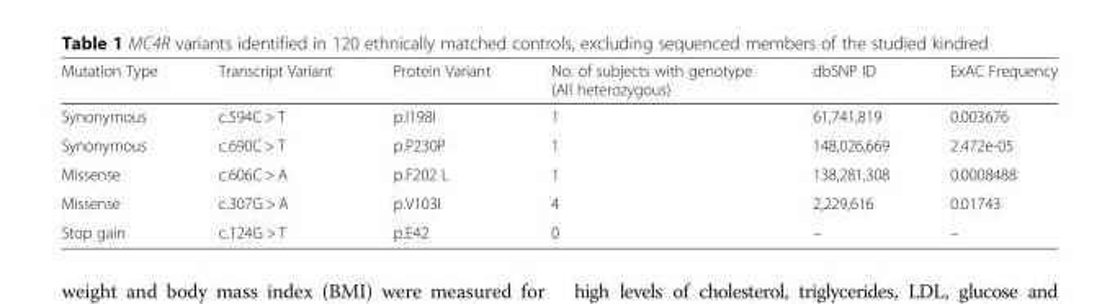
<table><thead><tr><td>Mutation Type</td><td>Transcript Variant</td><td>Protein Variant</td><td>No. of subjects with genotype (All heterozygous)</td><td>dbSNP ID</td><td>ExAC Frequency</td></tr></thead><tbody><tr><td>Synonymous</td><td>c.594C &gt; T</td><td>p.I198I</td><td>1</td><td>61,741,819</td><td>0.003676</td></tr><tr><td>Synonymous</td><td>c.690C &gt; T</td><td>p.P230P</td><td>1</td><td>148,026,669</td><td>2.472e-05</td></tr><tr><td>Missense</td><td>c.606C &gt; A</td><td>p.F202 L</td><td>1</td><td>138,281,308</td><td>0.0008488</td></tr><tr><td>Missense</td><td>c.307G &gt; A</td><td>p.V103I</td><td>4</td><td>2,229,616</td><td>0.01743</td></tr><tr><td>Stop gain</td><td>c.124G &gt; T</td><td>p.E42</td><td>0</td><td>–</td><td>–</td></tr></tbody></table>